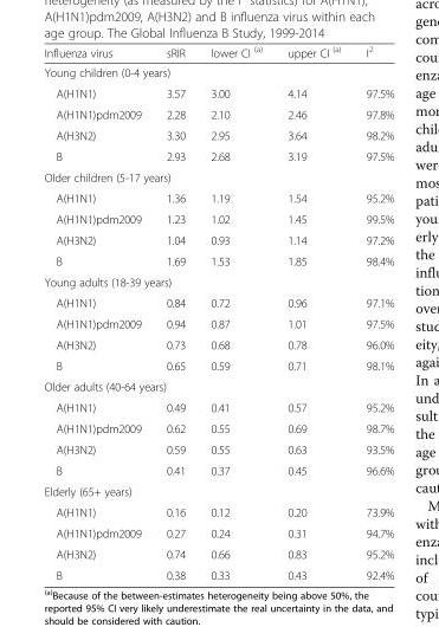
<table><thead><tr><td>Influenza virus</td><td>sRIR</td><td>lower CI <sup>(a)</sup></td><td>upper CI <sup>(a)</sup></td><td>I<sup>2</sup></td></tr></thead><tbody><tr><td colspan="5">Young children (0-4 years)</td></tr><tr><td>A(H1N1)</td><td>3.57</td><td>3.00</td><td>4.14</td><td>97.5%</td></tr><tr><td>A(H1N1)pdm2009</td><td>2.28</td><td>2.10</td><td>2.46</td><td>97.8%</td></tr><tr><td>A(H3N2)</td><td>3.30</td><td>2.95</td><td>3.64</td><td>98.2%</td></tr><tr><td>B</td><td>2.93</td><td>2.68</td><td>3.19</td><td>97.5%</td></tr><tr><td colspan="5">Older children (5-17 years)</td></tr><tr><td>A(H1N1)</td><td>1.36</td><td>1.19</td><td>1.54</td><td>95.2%</td></tr><tr><td>A(H1N1)pdm2009</td><td>1.23</td><td>1.02</td><td>1.45</td><td>99.5%</td></tr><tr><td>A(H3N2)</td><td>1.04</td><td>0.93</td><td>1.14</td><td>97.2%</td></tr><tr><td>B</td><td>1.69</td><td>1.53</td><td>1.85</td><td>98.4%</td></tr><tr><td colspan="5">Young adults (18-39 years)</td></tr><tr><td>A(H1N1)</td><td>0.84</td><td>0.72</td><td>0.96</td><td>97.1%</td></tr><tr><td>A(H1N1)pdm2009</td><td>0.94</td><td>0.87</td><td>1.01</td><td>97.5%</td></tr><tr><td>A(H3N2)</td><td>0.73</td><td>0.68</td><td>0.78</td><td>96.0%</td></tr><tr><td>B</td><td>0.65</td><td>0.59</td><td>0.71</td><td>98.1%</td></tr><tr><td colspan="5">Older adults (40-64 years)</td></tr><tr><td>A(H1N1)</td><td>0.49</td><td>0.41</td><td>0.57</td><td>95.2%</td></tr><tr><td>A(H1N1)pdm2009</td><td>0.62</td><td>0.55</td><td>0.69</td><td>98.7%</td></tr><tr><td>A(H3N2)</td><td>0.59</td><td>0.55</td><td>0.63</td><td>93.5%</td></tr><tr><td>B</td><td>0.41</td><td>0.37</td><td>0.45</td><td>96.6%</td></tr><tr><td colspan="5">Elderly (65+ years)</td></tr><tr><td>A(H1N1)</td><td>0.16</td><td>0.12</td><td>0.20</td><td>73.9%</td></tr><tr><td>A(H1N1)pdm2009</td><td>0.27</td><td>0.24</td><td>0.31</td><td>94.7%</td></tr><tr><td>A(H3N2)</td><td>0.74</td><td>0.66</td><td>0.83</td><td>95.2%</td></tr><tr><td>B</td><td>0.38</td><td>0.33</td><td>0.43</td><td>92.4%</td></tr></tbody></table>